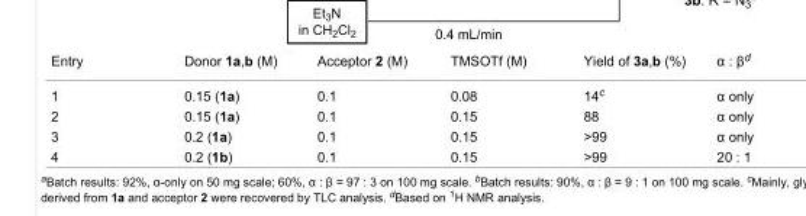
<table><tbody><tr><td>Entry</td><td>Donor 1a,b (M)</td><td>Acceptor 2 (M)</td><td>TMSOTf (M)</td><td>Yield of 3a,b (%)</td><td>α : β<sup>d</sup></td></tr><tr><td>1</td><td>0.15 (1a)</td><td>0.1</td><td>0.08</td><td>14<sup>c</sup></td><td>α only</td></tr><tr><td>2</td><td>0.15 (1a)</td><td>0.1</td><td>0.15</td><td>88</td><td>α only</td></tr><tr><td>3</td><td>0.2 (1a)</td><td>0.1</td><td>0.15</td><td>&gt;99</td><td>α only</td></tr><tr><td>4</td><td>0.2 (1b)</td><td>0.1</td><td>0.15</td><td>&gt;99</td><td>20 : 1</td></tr></tbody></table>